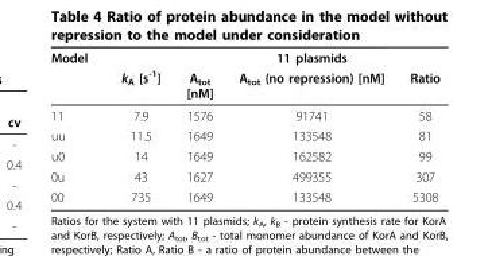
<table><thead><tr><td rowspan="2">Model</td><td rowspan="2">k<sub>A</sub> [s<sup>-1</sup>]</td><td rowspan="2">A<sub>tot</sub> [nM]</td><td rowspan="2">11 plasmids A<sub>tot</sub> (no repression) [nM]</td><td rowspan="2">Ratio</td></tr><tr></tr></thead><tbody><tr><td>11</td><td>7.9</td><td>1576</td><td>91741</td><td>58</td></tr><tr><td>uu</td><td>11.5</td><td>1649</td><td>133548</td><td>81</td></tr><tr><td>u0</td><td>14</td><td>1649</td><td>162582</td><td>99</td></tr><tr><td>0u</td><td>43</td><td>1627</td><td>499355</td><td>307</td></tr><tr><td>00</td><td>735</td><td>1649</td><td>133548</td><td>5308</td></tr></tbody></table>